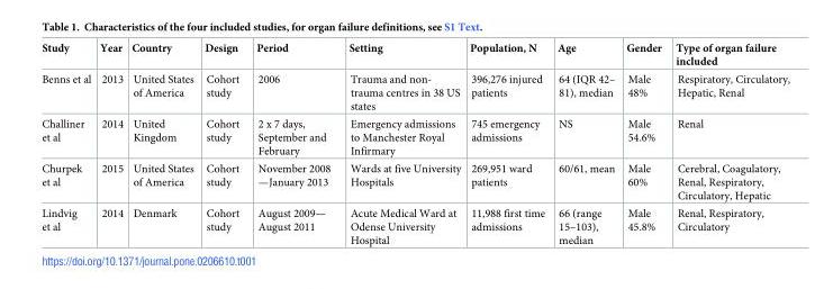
<table><thead><tr><td>Study</td><td>Year</td><td>Country</td><td>Design</td><td>Period</td><td>Setting</td><td>Population, N</td><td>Age</td><td>Gender</td><td>Type of organ failure included</td></tr></thead><tbody><tr><td>Benns et al</td><td>2013</td><td>United States of America</td><td>Cohort study</td><td>2006</td><td>Trauma and non- trauma centres in 38 US states</td><td>396,276 injured patients</td><td>64 (IQR 42– 81), median</td><td>Male 48%</td><td>Respiratory, Circulatory, Hepatic, Renal</td></tr><tr><td>Challiner et al</td><td>2014</td><td>United Kingdom</td><td>Cohort study</td><td>2 x 7 days, September and February</td><td>Emergency admissions to Manchester Royal Infirmary</td><td>745 emergency admissions</td><td>NS</td><td>Male 54.6%</td><td>Renal</td></tr><tr><td>Churpek et al</td><td>2015</td><td>United States of America</td><td>Cohort study</td><td>November 2008 —January 2013</td><td>Wards at five University Hospitals</td><td>269,951 ward patients</td><td>60/61, mean</td><td>Male 60%</td><td>Cerebral, Coagulatory, Renal, Respiratory, Circulatory, Hepatic</td></tr><tr><td>Lindvig et al</td><td>2014</td><td>Denmark</td><td>Cohort study</td><td>August 2009— August 2011</td><td>Acute Medical Ward at Odense University Hospital</td><td>11,988 first time admissions</td><td>66 (range 15–103), median</td><td>Male 45.8%</td><td>Renal, Respiratory, Circulatory</td></tr></tbody></table>